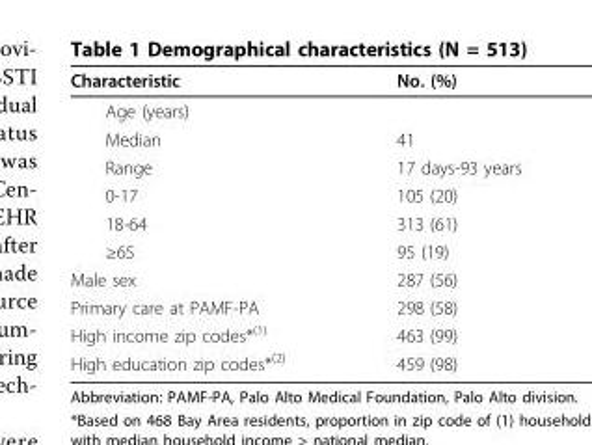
<table><thead><tr><td>Characteristic</td><td>No. (%)</td></tr></thead><tbody><tr><td colspan="2">Age (years)</td></tr><tr><td>Median</td><td>41</td></tr><tr><td>Range</td><td>17 days-93 years</td></tr><tr><td>0-17</td><td>105 (20)</td></tr><tr><td>18-64</td><td>313 (61)</td></tr><tr><td>≥65</td><td>95 (19)</td></tr><tr><td>Male sex</td><td>287 (56)</td></tr><tr><td>Primary care at PAMF-PA</td><td>298 (58)</td></tr><tr><td>High income zip codes*<sup>(1)</sup></td><td>463 (99)</td></tr><tr><td>High education zip codes*<sup>(2)</sup></td><td>459 (98)</td></tr></tbody></table>